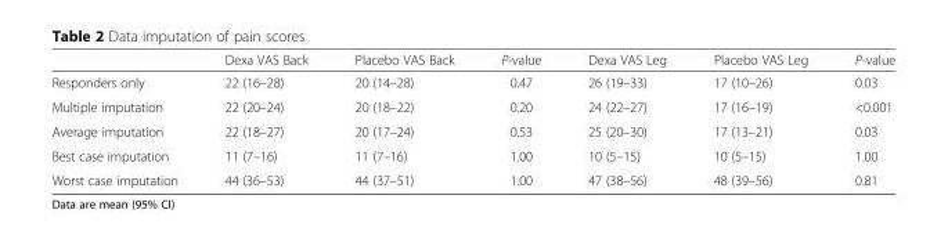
<table><thead><tr><td></td><td>Dexa VAS Back</td><td>Placebo VAS Back</td><td>P-value</td><td>Dexa VAS Leg</td><td>Placebo VAS Leg</td><td>P-value</td></tr></thead><tbody><tr><td>Responders only</td><td>22 (16–28)</td><td>20 (14–28)</td><td>0.47</td><td>26 (19–33)</td><td>17 (10–26)</td><td>0.03</td></tr><tr><td>Multiple imputation</td><td>22 (20–24)</td><td>20 (18–22)</td><td>0.20</td><td>24 (22–27)</td><td>17 (16–19)</td><td>&lt;0.001</td></tr><tr><td>Average imputation</td><td>22 (18–27)</td><td>20 (17–24)</td><td>0.53</td><td>25 (20–30)</td><td>17 (13–21)</td><td>0.03</td></tr><tr><td>Best case imputation</td><td>11 (7–16)</td><td>11 (7–16)</td><td>1.00</td><td>10 (5–15)</td><td>10 (5–15)</td><td>1.00</td></tr><tr><td>Worst case imputation</td><td>44 (36–53)</td><td>44 (37–51)</td><td>1.00</td><td>47 (38–56)</td><td>48 (39–56)</td><td>0.81</td></tr></tbody></table>